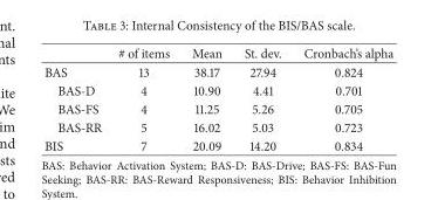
<table><thead><tr><td></td><td># of items</td><td>Mean</td><td>St. dev.</td><td>Cronbach’s alpha</td></tr></thead><tbody><tr><td>BAS</td><td>13</td><td>38.17</td><td>27.94</td><td>0.824</td></tr><tr><td>BAS-D</td><td>4</td><td>10.90</td><td>4.41</td><td>0.701</td></tr><tr><td>BAS-FS</td><td>4</td><td>11.25</td><td>5.26</td><td>0.705</td></tr><tr><td>BAS-RR</td><td>5</td><td>16.02</td><td>5.03</td><td>0.723</td></tr><tr><td>BIS</td><td>7</td><td>20.09</td><td>14.20</td><td>0.834</td></tr></tbody></table>